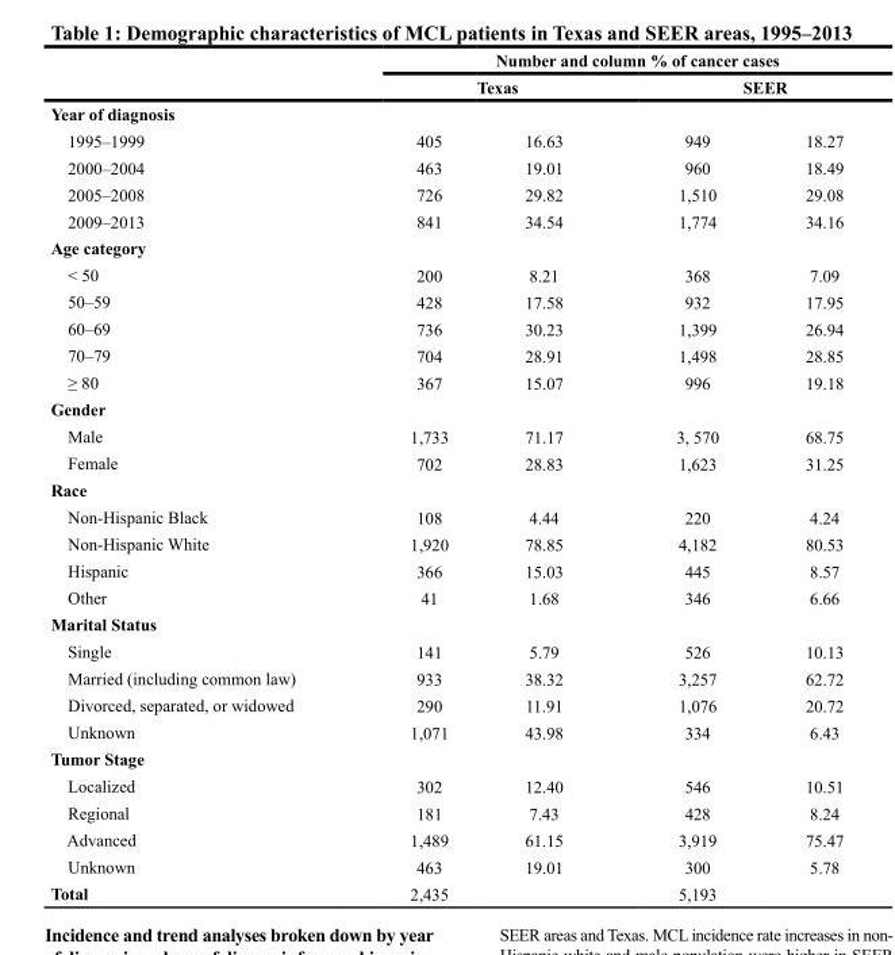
<table><thead><tr><td rowspan="3">Year of diagnosis</td><td colspan="4">Number and column % of cancer cases</td></tr><tr><td colspan="2">Texas</td><td colspan="2">SEER</td></tr><tr><td></td><td></td><td></td><td></td></tr></thead><tbody><tr><td>1995–1999</td><td>405</td><td>16.63</td><td>949</td><td>18.27</td></tr><tr><td>2000–2004</td><td>463</td><td>19.01</td><td>960</td><td>18.49</td></tr><tr><td>2005–2008</td><td>726</td><td>29.82</td><td>1,510</td><td>29.08</td></tr><tr><td>2009–2013</td><td>841</td><td>34.54</td><td>1,774</td><td>34.16</td></tr><tr><td colspan="5">Age category</td></tr><tr><td>&lt; 50</td><td>200</td><td>8.21</td><td>368</td><td>7.09</td></tr><tr><td>50–59</td><td>428</td><td>17.58</td><td>932</td><td>17.95</td></tr><tr><td>60–69</td><td>736</td><td>30.23</td><td>1,399</td><td>26.94</td></tr><tr><td>70–79</td><td>704</td><td>28.91</td><td>1,498</td><td>28.85</td></tr><tr><td>≥ 80</td><td>367</td><td>15.07</td><td>996</td><td>19.18</td></tr><tr><td colspan="5">Gender</td></tr><tr><td>Male</td><td>1,733</td><td>71.17</td><td>3, 570</td><td>68.75</td></tr><tr><td>Female</td><td>702</td><td>28.83</td><td>1,623</td><td>31.25</td></tr><tr><td colspan="5">Race</td></tr><tr><td>Non-Hispanic Black</td><td>108</td><td>4.44</td><td>220</td><td>4.24</td></tr><tr><td>Non-Hispanic White</td><td>1,920</td><td>78.85</td><td>4,182</td><td>80.53</td></tr><tr><td>Hispanic</td><td>366</td><td>15.03</td><td>445</td><td>8.57</td></tr><tr><td>Other</td><td>41</td><td>1.68</td><td>346</td><td>6.66</td></tr><tr><td colspan="5">Marital Status</td></tr><tr><td>Single</td><td>141</td><td>5.79</td><td>526</td><td>10.13</td></tr><tr><td>Married (including common law)</td><td>933</td><td>38.32</td><td>3,257</td><td>62.72</td></tr><tr><td>Divorced, separated, or widowed</td><td>290</td><td>11.91</td><td>1,076</td><td>20.72</td></tr><tr><td>Unknown</td><td>1,071</td><td>43.98</td><td>334</td><td>6.43</td></tr><tr><td colspan="5">Tumor Stage</td></tr><tr><td>Localized</td><td>302</td><td>12.40</td><td>546</td><td>10.51</td></tr><tr><td>Regional</td><td>181</td><td>7.43</td><td>428</td><td>8.24</td></tr><tr><td>Advanced</td><td>1,489</td><td>61.15</td><td>3,919</td><td>75.47</td></tr><tr><td>Unknown</td><td>463</td><td>19.01</td><td>300</td><td>5.78</td></tr><tr><td>Total</td><td>2,435</td><td></td><td>5,193</td><td></td></tr></tbody></table>